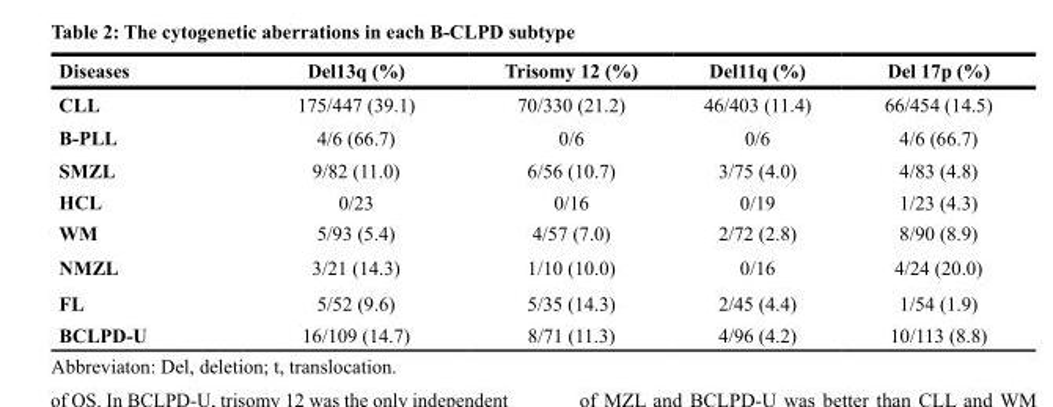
<table><thead><tr><td>Diseases</td><td>Del13q (%)</td><td>Trisomy 12 (%)</td><td>Del11q (%)</td><td>Del 17p (%)</td></tr></thead><tbody><tr><td>CLL</td><td>175/447 (39.1)</td><td>70/330 (21.2)</td><td>46/403 (11.4)</td><td>66/454 (14.5)</td></tr><tr><td>B-PLL</td><td>4/6 (66.7)</td><td>0/6</td><td>0/6</td><td>4/6 (66.7)</td></tr><tr><td>SMZL</td><td>9/82 (11.0)</td><td>6/56 (10.7)</td><td>3/75 (4.0)</td><td>4/83 (4.8)</td></tr><tr><td>HCL</td><td>0/23</td><td>0/16</td><td>0/19</td><td>1/23 (4.3)</td></tr><tr><td>WM</td><td>5/93 (5.4)</td><td>4/57 (7.0)</td><td>2/72 (2.8)</td><td>8/90 (8.9)</td></tr><tr><td>NMZL</td><td>3/21 (14.3)</td><td>1/10 (10.0)</td><td>0/16</td><td>4/24 (20.0)</td></tr><tr><td>FL</td><td>5/52 (9.6)</td><td>5/35 (14.3)</td><td>2/45 (4.4)</td><td>1/54 (1.9)</td></tr><tr><td>BCLPD-U</td><td>16/109 (14.7)</td><td>8/71 (11.3)</td><td>4/96 (4.2)</td><td>10/113 (8.8)</td></tr></tbody></table>